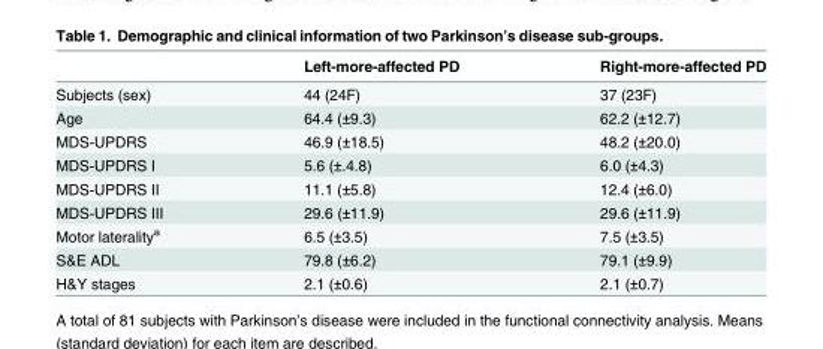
<table><thead><tr><td></td><td>Left-more-affected PD</td><td>Right-more-affected PD</td></tr></thead><tbody><tr><td>Subjects (sex)</td><td>44 (24F)</td><td>37 (23F)</td></tr><tr><td>Age</td><td>64.4 (±9.3)</td><td>62.2 (±12.7)</td></tr><tr><td>MDS-UPDRS</td><td>46.9 (±18.5)</td><td>48.2 (±20.0)</td></tr><tr><td>MDS-UPDRS I</td><td>5.6 (±.4.8)</td><td>6.0 (±4.3)</td></tr><tr><td>MDS-UPDRS II</td><td>11.1 (±5.8)</td><td>12.4 (±6.0)</td></tr><tr><td>MDS-UPDRS III</td><td>29.6 (±11.9)</td><td>29.6 (±11.9)</td></tr><tr><td>Motor laterality<sup>a</sup></td><td>6.5 (±3.5)</td><td>7.5 (±3.5)</td></tr><tr><td>S&amp;E ADL</td><td>79.8 (±6.2)</td><td>79.1 (±9.9)</td></tr><tr><td>H&amp;Y stages</td><td>2.1 (±0.6)</td><td>2.1 (±0.7)</td></tr></tbody></table>